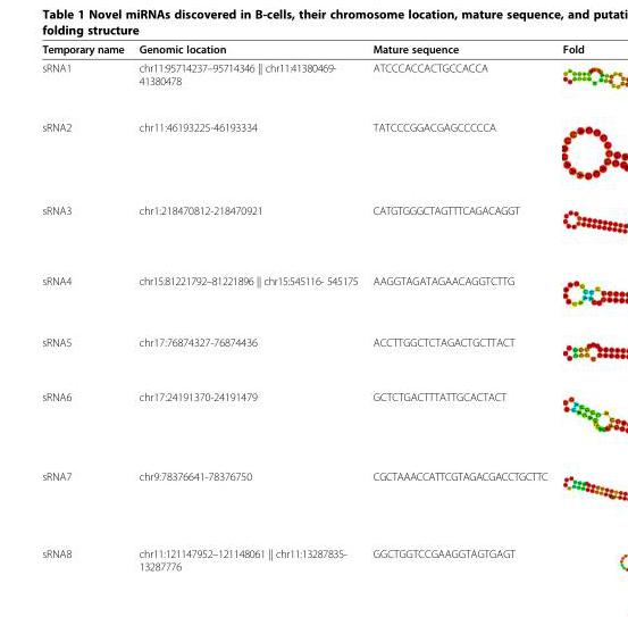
<table><thead><tr><td>Temporary name</td><td>Genomic location</td><td>Mature sequence</td><td>Fold</td></tr></thead><tbody><tr><td>sRNA1</td><td>chr11:95714237–95714346 || chr11:41380469- 41380478</td><td>ATCCCACCACTGCCACCA</td><td></td></tr><tr><td>sRNA2</td><td>chr11:46193225-46193334</td><td>TATCCCGGACGAGCCCCCA</td><td></td></tr><tr><td>sRNA3</td><td>chr1:218470812-218470921</td><td>CATGTGGGCTAGTTTCAGACAGGT</td><td></td></tr><tr><td>sRNA4</td><td>chr15:81221792–81221896 || chr15:545116- 545175</td><td>AAGGTAGATAGAACAGGTCTTG</td><td></td></tr><tr><td>sRNA5</td><td>chr17:76874327-76874436</td><td>ACCTTGGCTCTAGACTGCTTACT</td><td></td></tr><tr><td>sRNA6</td><td>chr17:24191370-24191479</td><td>GCTCTGACTTTATTGCACTACT</td><td></td></tr><tr><td>sRNA7</td><td>chr9:78376641-78376750</td><td>CGCTAAACCATTCGTAGACGACCTGCTTC</td><td></td></tr><tr><td>sRNA8</td><td>chr11:121147952–121148061 || chr11:13287835- 13287776</td><td>GGCTGGTCCGAAGGTAGTGAGT</td><td></td></tr></tbody></table>